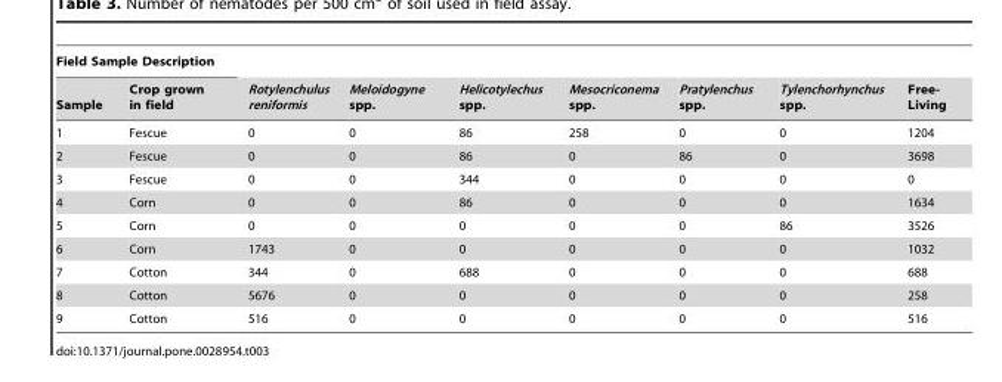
<table><thead><tr><td colspan="2">Field Sample Description</td><td rowspan="2">Rotylenchulus reniformis</td><td rowspan="2">Meloidogyne spp.</td><td rowspan="2">Helicotylechus spp.</td><td rowspan="2">Mesocriconema spp.</td><td rowspan="2">Pratylenchus spp.</td><td rowspan="2">Tylenchorhynchus spp.</td><td rowspan="2">Free- Living</td></tr><tr><td>Sample</td><td>Crop grown in field</td></tr></thead><tbody><tr><td>1</td><td>Fescue</td><td>0</td><td>0</td><td>86</td><td>258</td><td>0</td><td>0</td><td>1204</td></tr><tr><td>2</td><td>Fescue</td><td>0</td><td>0</td><td>86</td><td>0</td><td>86</td><td>0</td><td>3698</td></tr><tr><td>3</td><td>Fescue</td><td>0</td><td>0</td><td>344</td><td>0</td><td>0</td><td>0</td><td>0</td></tr><tr><td>4</td><td>Corn</td><td>0</td><td>0</td><td>86</td><td>0</td><td>0</td><td>0</td><td>1634</td></tr><tr><td>5</td><td>Corn</td><td>0</td><td>0</td><td>0</td><td>0</td><td>0</td><td>86</td><td>3526</td></tr><tr><td>6</td><td>Corn</td><td>1743</td><td>0</td><td>0</td><td>0</td><td>0</td><td>0</td><td>1032</td></tr><tr><td>7</td><td>Cotton</td><td>344</td><td>0</td><td>688</td><td>0</td><td>0</td><td>0</td><td>688</td></tr><tr><td>8</td><td>Cotton</td><td>5676</td><td>0</td><td>0</td><td>0</td><td>0</td><td>0</td><td>258</td></tr><tr><td>9</td><td>Cotton</td><td>516</td><td>0</td><td>0</td><td>0</td><td>0</td><td>0</td><td>516</td></tr></tbody></table>